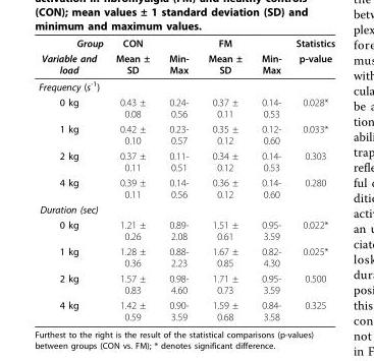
<table><thead><tr><td rowspan="2">Group Variable and load</td><td rowspan="2">CON Mean ± SD</td><td rowspan="2">Min- Max</td><td rowspan="2">FM Mean ± SD</td><td rowspan="2">Min- Max</td><td rowspan="2">Statistics p-value</td></tr><tr></tr></thead><tbody><tr><td colspan="6">Frequency (s<sup>-1</sup>)</td></tr><tr><td>0 kg</td><td>0.43 ± 0.08</td><td>0.24- 0.56</td><td>0.37 ± 0.11</td><td>0.14- 0.53</td><td>0.028*</td></tr><tr><td>1 kg</td><td>0.42 ± 0.10</td><td>0.23- 0.57</td><td>0.35 ± 0.12</td><td>0.12- 0.60</td><td>0.033*</td></tr><tr><td>2 kg</td><td>0.37 ± 0.11</td><td>0.11- 0.51</td><td>0.34 ± 0.12</td><td>0.14- 0.53</td><td>0.303</td></tr><tr><td>4 kg</td><td>0.39 ± 0.11</td><td>0.14- 0.56</td><td>0.36 ± 0.12</td><td>0.14- 0.60</td><td>0.280</td></tr><tr><td colspan="6">Duration (sec)</td></tr><tr><td>0 kg</td><td>1.21 ± 0.26</td><td>0.89- 2.08</td><td>1.51 ± 0.61</td><td>0.95- 3.59</td><td>0.022*</td></tr><tr><td>1 kg</td><td>1.28 ± 0.36</td><td>0.88- 2.23</td><td>1.67 ± 0.85</td><td>0.82- 4.30</td><td>0.025*</td></tr><tr><td>2 kg</td><td>1.57 ± 0.83</td><td>0.98- 4.60</td><td>1.71 ± 0.73</td><td>0.95- 3.59</td><td>0.500</td></tr><tr><td>4 kg</td><td>1.42 ± 0.59</td><td>0.90- 3.59</td><td>1.59 ± 0.68</td><td>0.84- 3.58</td><td>0.325</td></tr></tbody></table>